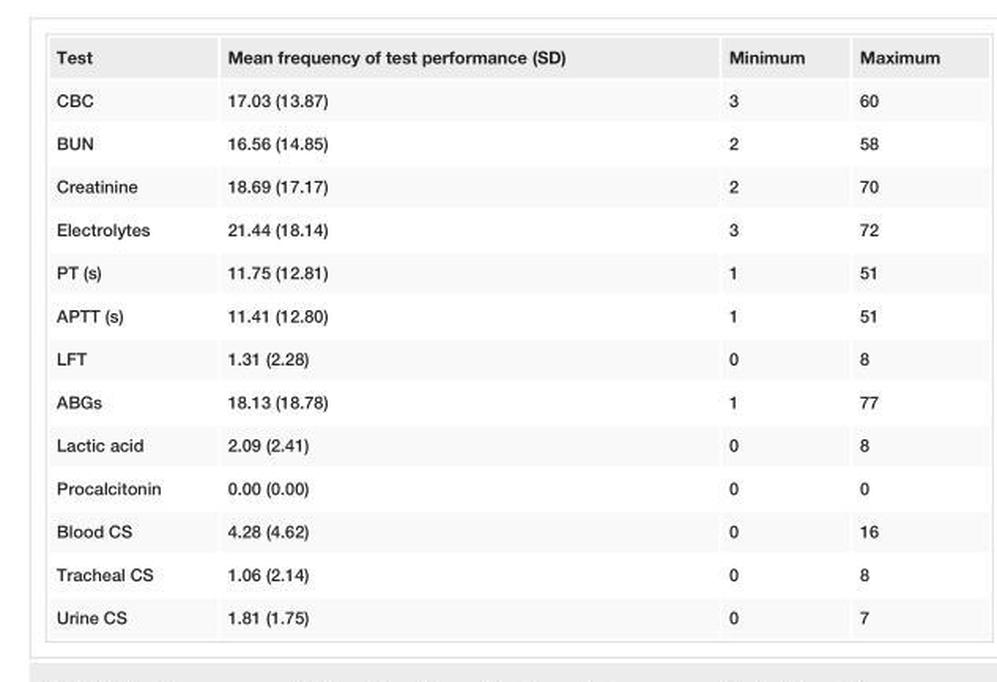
<table><tbody><tr><td>Test</td><td>Mean frequency of test performance (SD)</td><td>Minimum</td><td>Maximum</td></tr><tr><td>CBC</td><td>17.03 (13.87)</td><td>3</td><td>60</td></tr><tr><td>BUN</td><td>16.56 (14.85)</td><td>2</td><td>58</td></tr><tr><td>Creatinine</td><td>18.69 (17.17)</td><td>2</td><td>70</td></tr><tr><td>Electrolytes</td><td>21.44 (18.14)</td><td>3</td><td>72</td></tr><tr><td>PT (s)</td><td>11.75 (12.81)</td><td>1</td><td>51</td></tr><tr><td>APTT (s)</td><td>11.41 (12.80)</td><td>1</td><td>51</td></tr><tr><td>LFT</td><td>1.31 (2.28)</td><td>0</td><td>8</td></tr><tr><td>ABGs</td><td>18.13 (18.78)</td><td>1</td><td>77</td></tr><tr><td>Lactic acid</td><td>2.09 (2.41)</td><td>0</td><td>8</td></tr><tr><td>Procalcitonin</td><td>0.00 (0.00)</td><td>0</td><td>0</td></tr><tr><td>Blood CS</td><td>4.28 (4.62)</td><td>0</td><td>16</td></tr><tr><td>Tracheal CS</td><td>1.06 (2.14)</td><td>0</td><td>8</td></tr><tr><td>Urine CS</td><td>1.81 (1.75)</td><td>0</td><td>7</td></tr></tbody></table>